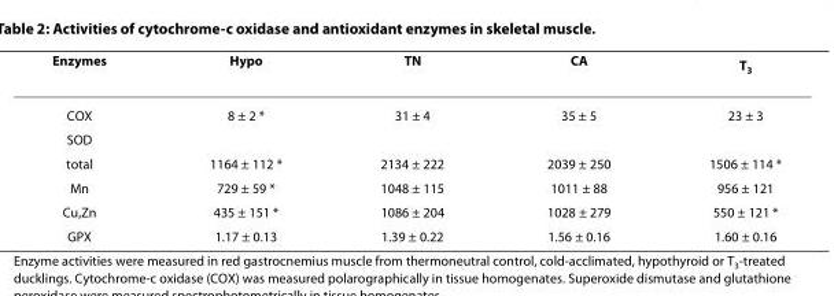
<table><thead><tr><td>Enzymes</td><td>Hypo</td><td>TN</td><td>CA</td><td>T<sub>3</sub></td></tr></thead><tbody><tr><td>COX</td><td>8 ± 2 *</td><td>31 ± 4</td><td>35 ± 5</td><td>23 ± 3</td></tr><tr><td colspan="5">SOD</td></tr><tr><td>total</td><td>1164 ± 112 *</td><td>2134 ± 222</td><td>2039 ± 250</td><td>1506 ± 114 *</td></tr><tr><td>Mn</td><td>729 ± 59 *</td><td>1048 ± 115</td><td>1011 ± 88</td><td>956 ± 121</td></tr><tr><td>Cu,Zn</td><td>435 ± 151 *</td><td>1086 ± 204</td><td>1028 ± 279</td><td>550 ± 121 *</td></tr><tr><td>GPX</td><td>1.17 ± 0.13</td><td>1.39 ± 0.22</td><td>1.56 ± 0.16</td><td>1.60 ± 0.16</td></tr></tbody></table>